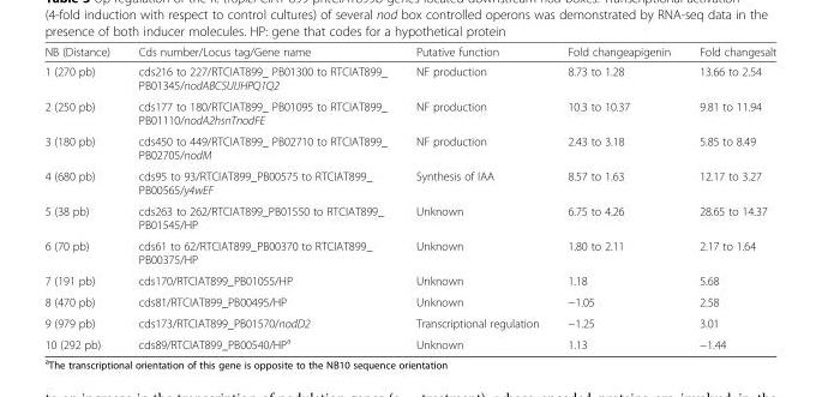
<table><thead><tr><td>NB (Distance)</td><td>Cds number/Locus tag/Gene name</td><td>Putative function</td><td>Fold changeapigenin</td><td>Fold changesalt</td></tr></thead><tbody><tr><td>1 (270 pb)</td><td>cds216 to 227/RTCIAT899_ PB01300 to RTCIAT899_ PB01345/nodABCSUIJHPQ1Q2</td><td>NF production</td><td>8.73 to 1.28</td><td>13.66 to 2.54</td></tr><tr><td>2 (250 pb)</td><td>cds177 to 180/RTCIAT899_ PB01095 to RTCIAT899_ PB01110/nodA2hsnTnodFE</td><td>NF production</td><td>10.3 to 10.37</td><td>9.81 to 11.94</td></tr><tr><td>3 (180 pb)</td><td>cds450 to 449/RTCIAT899_ PB02710 to RTCIAT899_ PB02705/nodM</td><td>NF production</td><td>2.43 to 3.18</td><td>5.85 to 8.49</td></tr><tr><td>4 (680 pb)</td><td>cds95 to 93/RTCIAT899_PB00575 to RTCIAT899_ PB00565/y4wEF</td><td>Synthesis of IAA</td><td>8.57 to 1.63</td><td>12.17 to 3.27</td></tr><tr><td>5 (38 pb)</td><td>cds263 to 262/RTCIAT899_PB01550 to RTCIAT899_ PB01545/HP</td><td>Unknown</td><td>6.75 to 4.26</td><td>28.65 to 14.37</td></tr><tr><td>6 (70 pb)</td><td>cds61 to 62/RTCIAT899_PB00370 to RTCIAT899_ PB00375/HP</td><td>Unknown</td><td>1.80 to 2.11</td><td>2.17 to 1.64</td></tr><tr><td>7 (191 pb)</td><td>cds170/RTCIAT899_PB01055/HP</td><td>Unknown</td><td>1.18</td><td>5.68</td></tr><tr><td>8 (470 pb)</td><td>cds81/RTCIAT899_PB00495/HP</td><td>Unknown</td><td>−1.05</td><td>2.58</td></tr><tr><td>9 (979 pb)</td><td>cds173/RTCIAT899_PB01570/nodD2</td><td>Transcriptional regulation</td><td>−1.25</td><td>3.01</td></tr><tr><td>10 (292 pb)</td><td>cds89/RTCIAT899_PB00540/HP<sup>a</sup></td><td>Unknown</td><td>1.13</td><td>−1.44</td></tr></tbody></table>